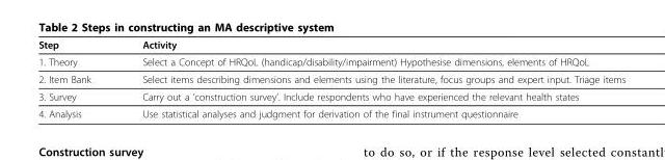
<table><thead><tr><td>Step</td><td>Activity</td></tr></thead><tbody><tr><td>1. Theory</td><td>Select a Concept of HRQoL (handicap/disability/impairment) Hypothesise dimensions, elements of HRQoL</td></tr><tr><td>2. Item Bank</td><td>Select items describing dimensions and elements using the literature, focus groups and expert input. Triage items</td></tr><tr><td>3. Survey</td><td>Carry out a ‘construction survey’. Include respondents who have experienced the relevant health states</td></tr><tr><td>4. Analysis</td><td>Use statistical analyses and judgment for derivation of the final instrument questionnaire</td></tr></tbody></table>